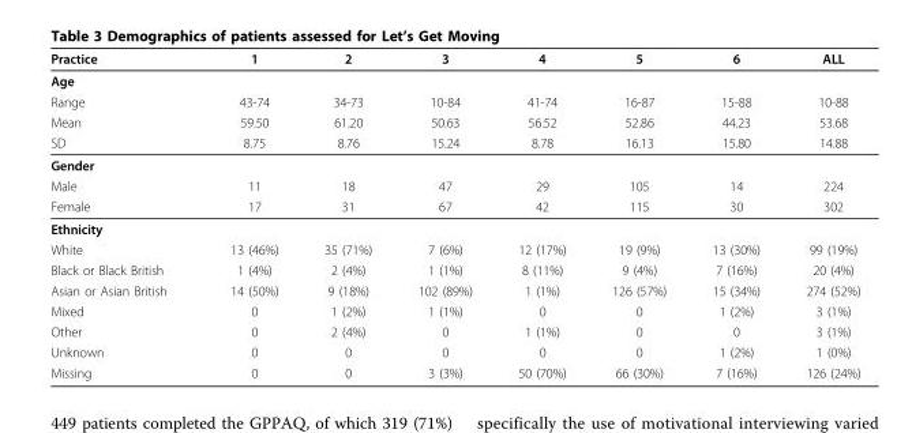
<table><thead><tr><td>Practice</td><td>1</td><td>2</td><td>3</td><td>4</td><td>5</td><td>6</td><td>ALL</td></tr></thead><tbody><tr><td colspan="8">Age</td></tr><tr><td>Range</td><td>43-74</td><td>34-73</td><td>10-84</td><td>41-74</td><td>16-87</td><td>15-88</td><td>10-88</td></tr><tr><td>Mean</td><td>59.50</td><td>61.20</td><td>50.63</td><td>56.52</td><td>52.86</td><td>44.23</td><td>53.68</td></tr><tr><td>SD</td><td>8.75</td><td>8.76</td><td>15.24</td><td>8.78</td><td>16.13</td><td>15.80</td><td>14.88</td></tr><tr><td colspan="8">Gender</td></tr><tr><td>Male</td><td>11</td><td>18</td><td>47</td><td>29</td><td>105</td><td>14</td><td>224</td></tr><tr><td>Female</td><td>17</td><td>31</td><td>67</td><td>42</td><td>115</td><td>30</td><td>302</td></tr><tr><td colspan="8">Ethnicity</td></tr><tr><td>White</td><td>13 (46%)</td><td>35 (71%)</td><td>7 (6%)</td><td>12 (17%)</td><td>19 (9%)</td><td>13 (30%)</td><td>99 (19%)</td></tr><tr><td>Black or Black British</td><td>1 (4%)</td><td>2 (4%)</td><td>1 (1%)</td><td>8 (11%)</td><td>9 (4%)</td><td>7 (16%)</td><td>20 (4%)</td></tr><tr><td>Asian or Asian British</td><td>14 (50%)</td><td>9 (18%)</td><td>102 (89%)</td><td>1 (1%)</td><td>126 (57%)</td><td>15 (34%)</td><td>274 (52%)</td></tr><tr><td>Mixed</td><td>0</td><td>1 (2%)</td><td>1 (1%)</td><td>0</td><td>0</td><td>1 (2%)</td><td>3 (1%)</td></tr><tr><td>Other</td><td>0</td><td>2 (4%)</td><td>0</td><td>1 (1%)</td><td>0</td><td>0</td><td>3 (1%)</td></tr><tr><td>Unknown</td><td>0</td><td>0</td><td>0</td><td>0</td><td>0</td><td>1 (2%)</td><td>1 (0%)</td></tr><tr><td>Missing</td><td>0</td><td>0</td><td>3 (3%)</td><td>50 (70%)</td><td>66 (30%)</td><td>7 (16%)</td><td>126 (24%)</td></tr></tbody></table>